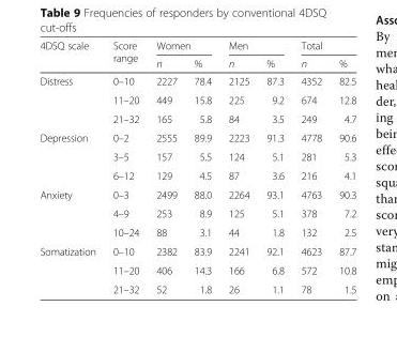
<table><thead><tr><td rowspan="2">4DSQ scale</td><td rowspan="2">Score range</td><td colspan="2">Women</td><td colspan="2">Men</td><td colspan="2">Total</td></tr><tr><td>n</td><td>%</td><td>n</td><td>%</td><td>n</td><td>%</td></tr></thead><tbody><tr><td rowspan="3">Distress</td><td>0–10</td><td>2227</td><td>78.4</td><td>2125</td><td>87.3</td><td>4352</td><td>82.5</td></tr><tr><td>11–20</td><td>449</td><td>15.8</td><td>225</td><td>9.2</td><td>674</td><td>12.8</td></tr><tr><td>21–32</td><td>165</td><td>5.8</td><td>84</td><td>3.5</td><td>249</td><td>4.7</td></tr><tr><td rowspan="3">Depression</td><td>0–2</td><td>2555</td><td>89.9</td><td>2223</td><td>91.3</td><td>4778</td><td>90.6</td></tr><tr><td>3–5</td><td>157</td><td>5.5</td><td>124</td><td>5.1</td><td>281</td><td>5.3</td></tr><tr><td>6–12</td><td>129</td><td>4.5</td><td>87</td><td>3.6</td><td>216</td><td>4.1</td></tr><tr><td rowspan="3">Anxiety</td><td>0–3</td><td>2499</td><td>88.0</td><td>2264</td><td>93.1</td><td>4763</td><td>90.3</td></tr><tr><td>4–9</td><td>253</td><td>8.9</td><td>125</td><td>5.1</td><td>378</td><td>7.2</td></tr><tr><td>10–24</td><td>88</td><td>3.1</td><td>44</td><td>1.8</td><td>132</td><td>2.5</td></tr><tr><td rowspan="3">Somatization</td><td>0–10</td><td>2382</td><td>83.9</td><td>2241</td><td>92.1</td><td>4623</td><td>87.7</td></tr><tr><td>11–20</td><td>406</td><td>14.3</td><td>166</td><td>6.8</td><td>572</td><td>10.8</td></tr><tr><td>21–32</td><td>52</td><td>1.8</td><td>26</td><td>1.1</td><td>78</td><td>1.5</td></tr></tbody></table>